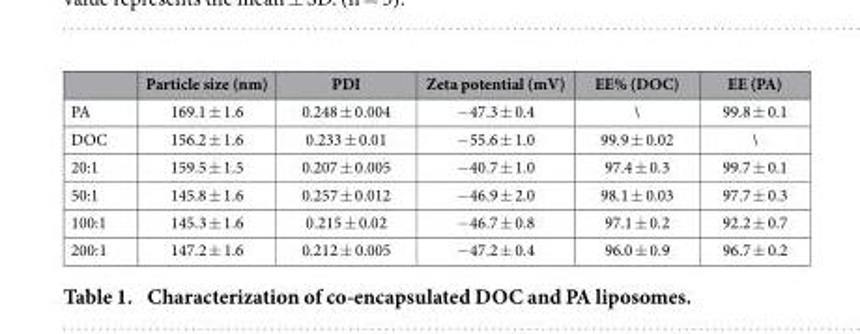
<table><thead><tr><td></td><td>Particle size (nm)</td><td>PDI</td><td>Zeta potential (mV)</td><td>EE% (DOC)</td><td>EE (PA)</td></tr></thead><tbody><tr><td>PA</td><td>169.1 ± 1.6</td><td>0.248 ± 0.004</td><td>− 47.3 ± 0.4</td><td>\</td><td>99.8 ± 0.1</td></tr><tr><td>DOC</td><td>156.2 ± 1.6</td><td>0.233 ± 0.01</td><td>− 55.6 ± 1.0</td><td>99.9 ± 0.02</td><td>\</td></tr><tr><td>20:1</td><td>159.5 ± 1.5</td><td>0.207 ± 0.005</td><td>− 40.7 ± 1.0</td><td>97.4 ± 0.3</td><td>99.7 ± 0.1</td></tr><tr><td>50:1</td><td>145.8 ± 1.6</td><td>0.257 ± 0.012</td><td>− 46.9 ± 2.0</td><td>98.1 ± 0.03</td><td>97.7 ± 0.3</td></tr><tr><td>100:1</td><td>145.3 ± 1.6</td><td>0.215 ± 0.02</td><td>− 46.7 ± 0.8</td><td>97.1 ± 0.2</td><td>92.2 ± 0.7</td></tr><tr><td>200:1</td><td>147.2 ± 1.6</td><td>0.212 ± 0.005</td><td>− 47.2 ± 0.4</td><td>96.0 ± 0.9</td><td>96.7 ± 0.2</td></tr></tbody></table>